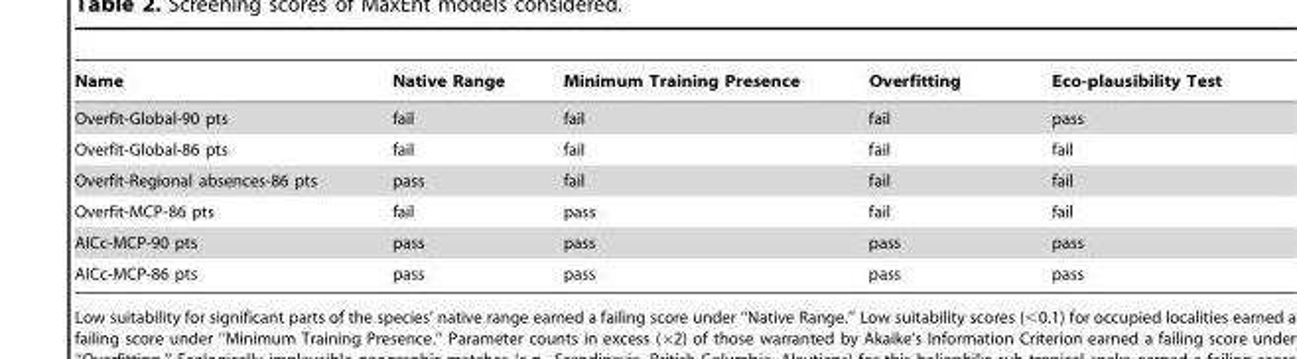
<table><thead><tr><td>Name</td><td>Native Range</td><td>Minimum Training Presence</td><td>Overfitting</td><td>Eco-plausibility Test</td></tr></thead><tbody><tr><td>Overfit-Global-90 pts</td><td>fail</td><td>fail</td><td>fail</td><td>pass</td></tr><tr><td>Overfit-Global-86 pts</td><td>fail</td><td>fail</td><td>fail</td><td>fail</td></tr><tr><td>Overfit-Regional absences-86 pts</td><td>pass</td><td>fail</td><td>fail</td><td>fail</td></tr><tr><td>Overfit-MCP-86 pts</td><td>fail</td><td>pass</td><td>fail</td><td>fail</td></tr><tr><td>AICc-MCP-90 pts</td><td>pass</td><td>pass</td><td>pass</td><td>pass</td></tr><tr><td>AICc-MCP-86 pts</td><td>pass</td><td>pass</td><td>pass</td><td>pass</td></tr></tbody></table>